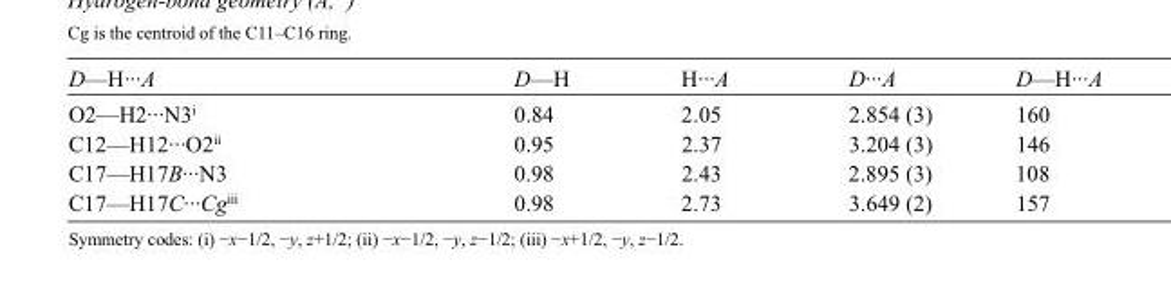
<table><tbody><tr><td>D—H···A</td><td>D—H</td><td>H···A</td><td>D···A</td><td>D—H···A</td></tr><tr><td>O2—H2···N3<sup>i</sup></td><td>0.84</td><td>2.05</td><td>2.854 (3)</td><td>160</td></tr><tr><td>C12—H12···O2<sup>ii</sup></td><td>0.95</td><td>2.37</td><td>3.204 (3)</td><td>146</td></tr><tr><td>C17—H17B···N3</td><td>0.98</td><td>2.43</td><td>2.895 (3)</td><td>108</td></tr><tr><td>C17—H17C···Cg<sup>iii</sup></td><td>0.98</td><td>2.73</td><td>3.649 (2)</td><td>157</td></tr></tbody></table>